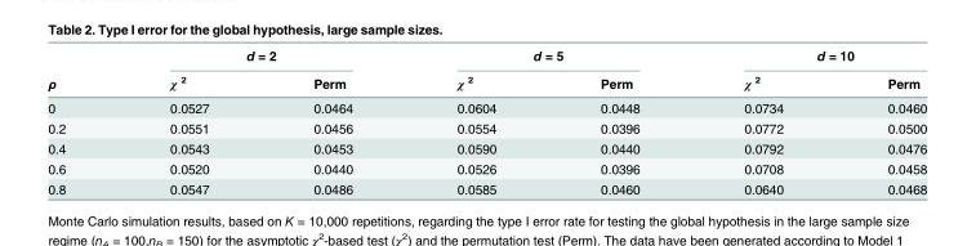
<table><thead><tr><td rowspan="2">ρ</td><td colspan="2">d = 2</td><td colspan="2">d = 5</td><td colspan="2">d = 10</td></tr><tr><td>χ <sup>2</sup></td><td>Perm</td><td>χ <sup>2</sup></td><td>Perm</td><td>χ <sup>2</sup></td><td>Perm</td></tr></thead><tbody><tr><td>0</td><td>0.0527</td><td>0.0464</td><td>0.0604</td><td>0.0448</td><td>0.0734</td><td>0.0460</td></tr><tr><td>0.2</td><td>0.0551</td><td>0.0456</td><td>0.0554</td><td>0.0396</td><td>0.0772</td><td>0.0500</td></tr><tr><td>0.4</td><td>0.0543</td><td>0.0453</td><td>0.0590</td><td>0.0440</td><td>0.0792</td><td>0.0476</td></tr><tr><td>0.6</td><td>0.0520</td><td>0.0440</td><td>0.0526</td><td>0.0396</td><td>0.0708</td><td>0.0458</td></tr><tr><td>0.8</td><td>0.0547</td><td>0.0486</td><td>0.0585</td><td>0.0460</td><td>0.0640</td><td>0.0468</td></tr></tbody></table>